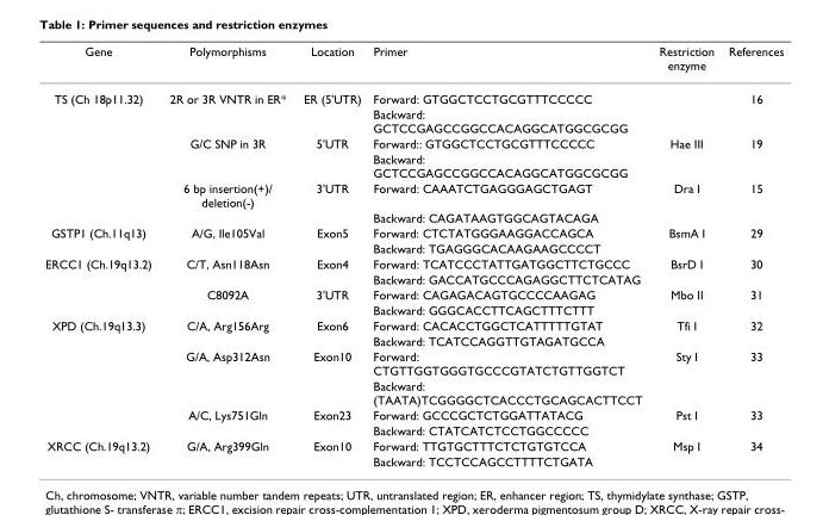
<table><thead><tr><td>Gene</td><td>Polymorphisms</td><td>Location</td><td>Primer</td><td>Restriction enzyme</td><td>References</td></tr></thead><tbody><tr><td rowspan="6">TS (Ch 18p11.32)</td><td>2R or 3R VNTR in ER*</td><td>ER (5&#x27;UTR)</td><td>Forward: GTGGCTCCTGCGTTTCCCCC</td><td></td><td>16</td></tr><tr><td></td><td></td><td>Backward: GCTCCGAGCCGGCCACAGGCATGGCGCGG</td><td></td><td></td></tr><tr><td>G/C SNP in 3R</td><td>5&#x27;UTR</td><td>Forward:: GTGGCTCCTGCGTTTCCCCC</td><td>Hae III</td><td>19</td></tr><tr><td></td><td></td><td>Backward: GCTCCGAGCCGGCCACAGGCATGGCGCGG</td><td></td><td></td></tr><tr><td>6 bp insertion(+)/ deletion(-)</td><td>3&#x27;UTR</td><td>Forward: CAAATCTGAGGGAGCTGAGT</td><td>Dra I</td><td>15</td></tr><tr><td></td><td></td><td>Backward: CAGATAAGTGGCAGTACAGA</td><td></td><td></td></tr><tr><td rowspan="2">GSTP1 (Ch.11q13)</td><td>A/G, Ile105Val</td><td>Exon5</td><td>Forward: CTCTATGGGAAGGACCAGCA</td><td>BsmA I</td><td>29</td></tr><tr><td></td><td></td><td>Backward: TGAGGGCACAAGAAGCCCCT</td><td></td><td></td></tr><tr><td rowspan="4">ERCC1 (Ch.19q13.2)</td><td>C/T, Asn118Asn</td><td>Exon4</td><td>Forward: TCATCCCTATTGATGGCTTCTGCCC</td><td>BsrD I</td><td>30</td></tr><tr><td></td><td></td><td>Backward: GACCATGCCCAGAGGCTTCTCATAG</td><td></td><td></td></tr><tr><td>C8092A</td><td>3&#x27;UTR</td><td>Forward: CAGAGACAGTGCCCCAAGAG</td><td>Mbo II</td><td>31</td></tr><tr><td></td><td></td><td>Backward: GGGCACCTTCAGCTTTCTTT</td><td></td><td></td></tr><tr><td rowspan="6">XPD (Ch.19q13.3)</td><td>C/A, Arg156Arg</td><td>Exon6</td><td>Forward: CACACCTGGCTCATTTTTGTAT</td><td>Tfi I</td><td>32</td></tr><tr><td></td><td></td><td>Backward: TCATCCAGGTTGTAGATGCCA</td><td></td><td></td></tr><tr><td>G/A, Asp312Asn</td><td>Exon10</td><td>Forward: CTGTTGGTGGGTGCCCGTATCTGTTGGTCT</td><td>Sty I</td><td>33</td></tr><tr><td></td><td></td><td>Backward: (TAATA)TCGGGGCTCACCCTGCAGCACTTCCT</td><td></td><td></td></tr><tr><td>A/C, Lys751Gln</td><td>Exon23</td><td>Forward: GCCCGCTCTGGATTATACG</td><td>Pst I</td><td>33</td></tr><tr><td></td><td></td><td>Backward: CTATCATCTCCTGGCCCCC</td><td></td><td></td></tr><tr><td rowspan="2">XRCC (Ch.19q13.2)</td><td>G/A, Arg399Gln</td><td>Exon10</td><td>Forward: TTGTGCTTTCTCTGTGTCCA</td><td>Msp I</td><td>34</td></tr><tr><td></td><td></td><td>Backward: TCCTCCAGCCTTTTCTGATA</td><td></td><td></td></tr></tbody></table>